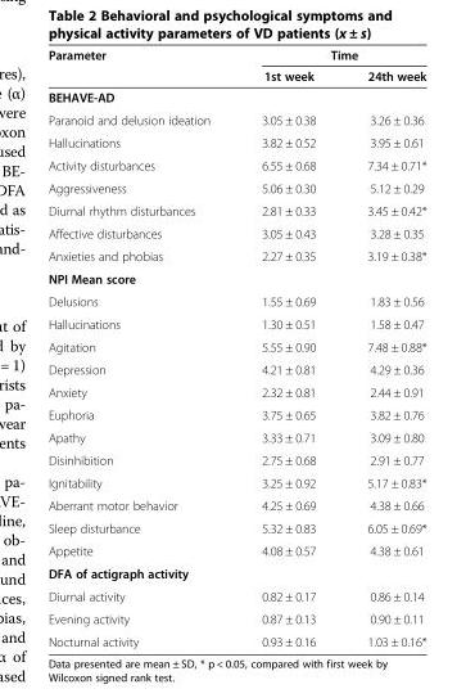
<table><thead><tr><td rowspan="2">Parameter</td><td colspan="2">Time</td></tr><tr><td>1st week</td><td>24th week</td></tr></thead><tbody><tr><td colspan="3">BEHAVE-AD</td></tr><tr><td>Paranoid and delusion ideation</td><td>3.05 ± 0.38</td><td>3.26 ± 0.36</td></tr><tr><td>Hallucinations</td><td>3.82 ± 0.52</td><td>3.95 ± 0.61</td></tr><tr><td>Activity disturbances</td><td>6.55 ± 0.68</td><td>7.34 ± 0.71*</td></tr><tr><td>Aggressiveness</td><td>5.06 ± 0.30</td><td>5.12 ± 0.29</td></tr><tr><td>Diurnal rhythm disturbances</td><td>2.81 ± 0.33</td><td>3.45 ± 0.42*</td></tr><tr><td>Affective disturbances</td><td>3.05 ± 0.43</td><td>3.28 ± 0.35</td></tr><tr><td>Anxieties and phobias</td><td>2.27 ± 0.35</td><td>3.19 ± 0.38*</td></tr><tr><td colspan="3">NPI Mean score</td></tr><tr><td>Delusions</td><td>1.55 ± 0.69</td><td>1.83 ± 0.56</td></tr><tr><td>Hallucinations</td><td>1.30 ± 0.51</td><td>1.58 ± 0.47</td></tr><tr><td>Agitation</td><td>5.55 ± 0.90</td><td>7.48 ± 0.88*</td></tr><tr><td>Depression</td><td>4.21 ± 0.81</td><td>4.29 ± 0.36</td></tr><tr><td>Anxiety</td><td>2.32 ± 0.81</td><td>2.44 ± 0.91</td></tr><tr><td>Euphoria</td><td>3.75 ± 0.65</td><td>3.82 ± 0.76</td></tr><tr><td>Apathy</td><td>3.33 ± 0.71</td><td>3.09 ± 0.80</td></tr><tr><td>Disinhibition</td><td>2.75 ± 0.68</td><td>2.91 ± 0.77</td></tr><tr><td>Ignitability</td><td>3.25 ± 0.92</td><td>5.17 ± 0.83*</td></tr><tr><td>Aberrant motor behavior</td><td>4.25 ± 0.69</td><td>4.38 ± 0.66</td></tr><tr><td>Sleep disturbance</td><td>5.32 ± 0.83</td><td>6.05 ± 0.69*</td></tr><tr><td>Appetite</td><td>4.08 ± 0.57</td><td>4.38 ± 0.61</td></tr><tr><td colspan="3">DFA of actigraph activity</td></tr><tr><td>Diurnal activity</td><td>0.82 ± 0.17</td><td>0.86 ± 0.14</td></tr><tr><td>Evening activity</td><td>0.87 ± 0.13</td><td>0.90 ± 0.11</td></tr><tr><td>Nocturnal activity</td><td>0.93 ± 0.16</td><td>1.03 ± 0.16*</td></tr></tbody></table>